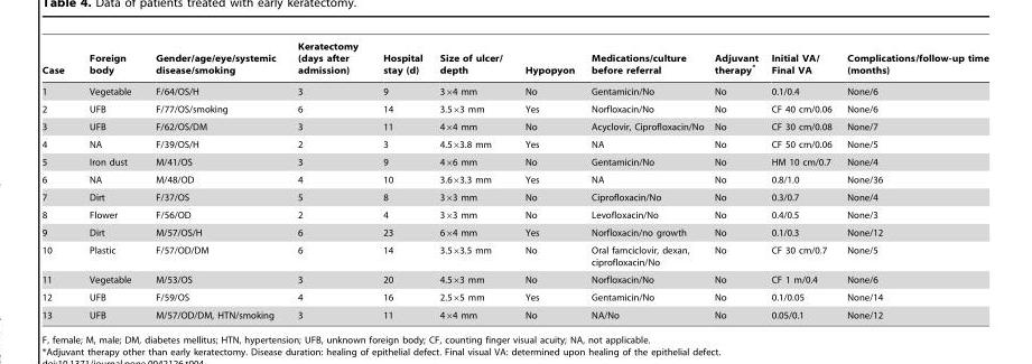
<table><thead><tr><td>Case</td><td>Foreign body</td><td>Gender/age/eye/systemic disease/smoking</td><td>Keratectomy (days after admission)</td><td>Hospital stay (d)</td><td>Size of ulcer/ depth</td><td>Hypopyon</td><td>Medications/culture before referral</td><td>Adjuvant therapy*</td><td>Initial VA/ Final VA</td><td>Complications/follow-up time (months)</td></tr></thead><tbody><tr><td>1</td><td>Vegetable</td><td>F/64/OS/H</td><td>3</td><td>9</td><td>3×4 mm</td><td>No</td><td>Gentamicin/No</td><td>No</td><td>0.1/0.4</td><td>None/6</td></tr><tr><td>2</td><td>UFB</td><td>F/77/OS/smoking</td><td>6</td><td>14</td><td>3.5×3 mm</td><td>Yes</td><td>Norfloxacin/No</td><td>No</td><td>CF 40 cm/0.06</td><td>None/6</td></tr><tr><td>3</td><td>UFB</td><td>F/62/OS/DM</td><td>3</td><td>11</td><td>4×4 mm</td><td>No</td><td>Acyclovir, Ciprofloxacin/No</td><td>No</td><td>CF 30 cm/0.08</td><td>None/7</td></tr><tr><td>4</td><td>NA</td><td>F/39/OS/H</td><td>2</td><td>3</td><td>4.5×3.8 mm</td><td>Yes</td><td>NA</td><td>No</td><td>CF 50 cm/0.06</td><td>None/5</td></tr><tr><td>5</td><td>Iron dust</td><td>M/41/OS</td><td>3</td><td>9</td><td>4×6 mm</td><td>No</td><td>Gentamicin/No</td><td>No</td><td>HM 10 cm/0.7</td><td>None/4</td></tr><tr><td>6</td><td>NA</td><td>M/48/OD</td><td>4</td><td>10</td><td>3.6×3.3 mm</td><td>Yes</td><td>NA</td><td>No</td><td>0.8/1.0</td><td>None/36</td></tr><tr><td>7</td><td>Dirt</td><td>F/37/OS</td><td>5</td><td>8</td><td>3×3 mm</td><td>No</td><td>Ciprofloxacin/No</td><td>No</td><td>0.3/0.7</td><td>None/4</td></tr><tr><td>8</td><td>Flower</td><td>F/56/OD</td><td>2</td><td>4</td><td>3×3 mm</td><td>No</td><td>Levofloxacin/No</td><td>No</td><td>0.4/0.5</td><td>None/3</td></tr><tr><td>9</td><td>Dirt</td><td>M/57/OS/H</td><td>6</td><td>23</td><td>6×4 mm</td><td>Yes</td><td>Norfloxacin/no growth</td><td>No</td><td>0.1/0.3</td><td>None/12</td></tr><tr><td>10</td><td>Plastic</td><td>F/57/OD/DM</td><td>6</td><td>14</td><td>3.5×3.5 mm</td><td>No</td><td>Oral famciclovir, dexan, ciprofloxacin/No</td><td>No</td><td>CF 30 cm/0.7</td><td>None/5</td></tr><tr><td>11</td><td>Vegetable</td><td>M/53/OS</td><td>3</td><td>20</td><td>4.5×3 mm</td><td>No</td><td>Norfloxacin/No</td><td>No</td><td>CF 1 m/0.4</td><td>None/6</td></tr><tr><td>12</td><td>UFB</td><td>F/59/OS</td><td>4</td><td>16</td><td>2.5×5 mm</td><td>Yes</td><td>Gentamicin/No</td><td>No</td><td>0.1/0.05</td><td>None/14</td></tr><tr><td>13</td><td>UFB</td><td>M/57/OD/DM, HTN/smoking</td><td>3</td><td>11</td><td>4×4 mm</td><td>No</td><td>NA/No</td><td>No</td><td>0.05/0.1</td><td>None/12</td></tr></tbody></table>